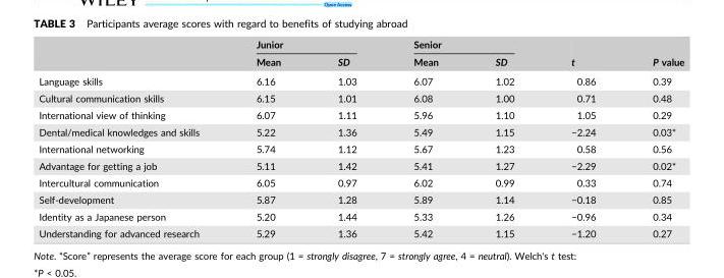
<table><thead><tr><td rowspan="2"></td><td colspan="2">Junior</td><td colspan="2">Senior</td><td rowspan="2">t</td><td rowspan="2">P value</td></tr><tr><td>Mean</td><td>SD</td><td>Mean</td><td>SD</td></tr></thead><tbody><tr><td>Language skills</td><td>6.16</td><td>1.03</td><td>6.07</td><td>1.02</td><td>0.86</td><td>0.39</td></tr><tr><td>Cultural communication skills</td><td>6.15</td><td>1.01</td><td>6.08</td><td>1.00</td><td>0.71</td><td>0.48</td></tr><tr><td>International view of thinking</td><td>6.07</td><td>1.11</td><td>5.96</td><td>1.10</td><td>1.05</td><td>0.29</td></tr><tr><td>Dental/medical knowledges and skills</td><td>5.22</td><td>1.36</td><td>5.49</td><td>1.15</td><td>−2.24</td><td>0.03*</td></tr><tr><td>International networking</td><td>5.74</td><td>1.12</td><td>5.67</td><td>1.23</td><td>0.58</td><td>0.56</td></tr><tr><td>Advantage for getting a job</td><td>5.11</td><td>1.42</td><td>5.41</td><td>1.27</td><td>−2.29</td><td>0.02*</td></tr><tr><td>Intercultural communication</td><td>6.05</td><td>0.97</td><td>6.02</td><td>0.99</td><td>0.33</td><td>0.74</td></tr><tr><td>Self‐development</td><td>5.87</td><td>1.28</td><td>5.89</td><td>1.14</td><td>−0.18</td><td>0.85</td></tr><tr><td>Identity as a Japanese person</td><td>5.20</td><td>1.44</td><td>5.33</td><td>1.26</td><td>−0.96</td><td>0.34</td></tr><tr><td>Understanding for advanced research</td><td>5.29</td><td>1.36</td><td>5.42</td><td>1.15</td><td>−1.20</td><td>0.27</td></tr></tbody></table>